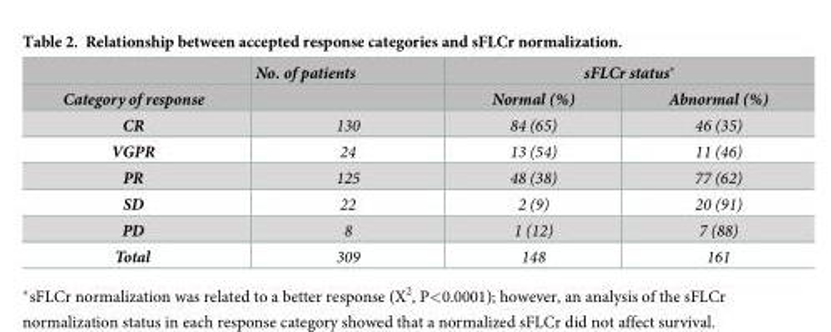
<table><thead><tr><td rowspan="2">Category of response</td><td rowspan="2">No. of patients</td><td colspan="2">sFLCr status*</td></tr><tr><td>Normal (%)</td><td>Abnormal (%)</td></tr></thead><tbody><tr><td>CR</td><td>130</td><td>84 (65)</td><td>46 (35)</td></tr><tr><td>VGPR</td><td>24</td><td>13 (54)</td><td>11 (46)</td></tr><tr><td>PR</td><td>125</td><td>48 (38)</td><td>77 (62)</td></tr><tr><td>SD</td><td>22</td><td>2 (9)</td><td>20 (91)</td></tr><tr><td>PD</td><td>8</td><td>1 (12)</td><td>7 (88)</td></tr><tr><td>Total</td><td>309</td><td>148</td><td>161</td></tr></tbody></table>